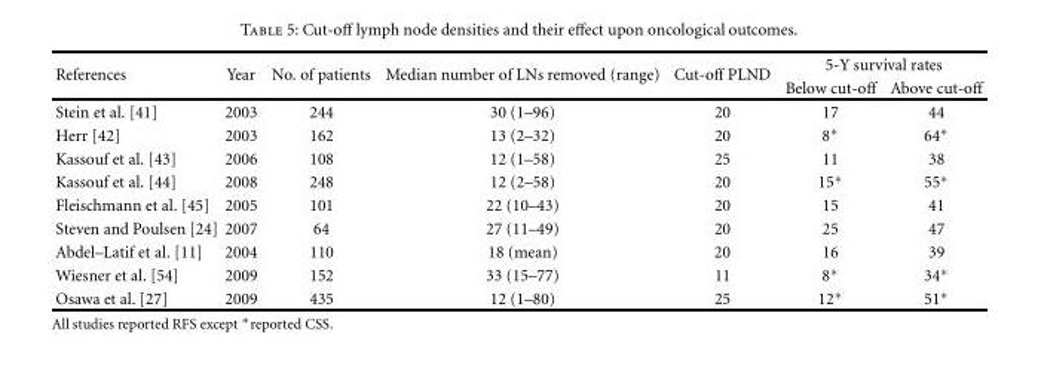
<table><thead><tr><td rowspan="2">References</td><td rowspan="2">Year</td><td rowspan="2">No. of patients</td><td rowspan="2">Median number of LNs removed (range)</td><td rowspan="2">Cut-off PLND</td><td colspan="2">5-Y survival rates</td></tr><tr><td>Below cut-off</td><td>Above cut-off</td></tr></thead><tbody><tr><td>Stein et al. [41]</td><td>2003</td><td>244</td><td>30 (1–96)</td><td>20</td><td>17</td><td>44</td></tr><tr><td>Herr [42]</td><td>2003</td><td>162</td><td>13 (2–32)</td><td>20</td><td>8∗</td><td>64∗</td></tr><tr><td>Kassouf et al. [43]</td><td>2006</td><td>108</td><td>12 (1–58)</td><td>25</td><td>11</td><td>38</td></tr><tr><td>Kassouf et al. [44]</td><td>2008</td><td>248</td><td>12 (2–58)</td><td>20</td><td>15∗</td><td>55∗</td></tr><tr><td>Fleischmann et al. [45]</td><td>2005</td><td>101</td><td>22 (10–43)</td><td>20</td><td>15</td><td>41</td></tr><tr><td>Steven and Poulsen [24]</td><td>2007</td><td>64</td><td>27 (11–49)</td><td>20</td><td>25</td><td>47</td></tr><tr><td>Abdel–Latif et al. [11]</td><td>2004</td><td>110</td><td>18 (mean)</td><td>20</td><td>16</td><td>39</td></tr><tr><td>Wiesner et al. [54]</td><td>2009</td><td>152</td><td>33 (15–77)</td><td>11</td><td>8∗</td><td>34∗</td></tr><tr><td>Osawa et al. [27]</td><td>2009</td><td>435</td><td>12 (1–80)</td><td>25</td><td>12∗</td><td>51∗</td></tr></tbody></table>